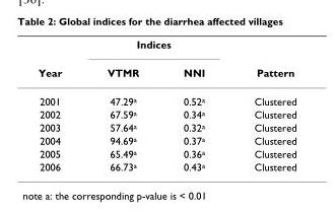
<table><thead><tr><td rowspan="2">Year</td><td colspan="2">Indices</td><td rowspan="2">Pattern</td></tr><tr><td>VTMR</td><td>NNI</td></tr></thead><tbody><tr><td>2001</td><td>47.29<sup>a</sup></td><td>0.52<sup>a</sup></td><td>Clustered</td></tr><tr><td>2002</td><td>67.59<sup>a</sup></td><td>0.34<sup>a</sup></td><td>Clustered</td></tr><tr><td>2003</td><td>57.64<sup>a</sup></td><td>0.32<sup>a</sup></td><td>Clustered</td></tr><tr><td>2004</td><td>94.69<sup>a</sup></td><td>0.37<sup>a</sup></td><td>Clustered</td></tr><tr><td>2005</td><td>65.49<sup>a</sup></td><td>0.36<sup>a</sup></td><td>Clustered</td></tr><tr><td>2006</td><td>66.73<sup>a</sup></td><td>0.43<sup>a</sup></td><td>Clustered</td></tr></tbody></table>